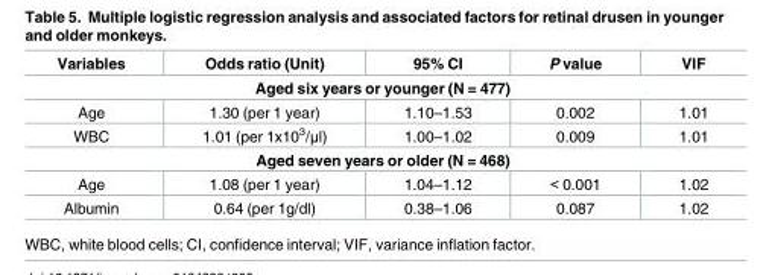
<table><thead><tr><td>Variables</td><td>Odds ratio (Unit)</td><td>95% CI</td><td>P value</td><td>VIF</td></tr></thead><tbody><tr><td colspan="5">Aged six years or younger (N = 477)</td></tr><tr><td>Age</td><td>1.30 (per 1 year)</td><td>1.10–1.53</td><td>0.002</td><td>1.01</td></tr><tr><td>WBC</td><td>1.01 (per 1x10<sup>3</sup>/μl)</td><td>1.00–1.02</td><td>0.009</td><td>1.01</td></tr><tr><td colspan="5">Aged seven years or older (N = 468)</td></tr><tr><td>Age</td><td>1.08 (per 1 year)</td><td>1.04–1.12</td><td>&lt; 0.001</td><td>1.02</td></tr><tr><td>Albumin</td><td>0.64 (per 1g/dl)</td><td>0.38–1.06</td><td>0.087</td><td>1.02</td></tr></tbody></table>